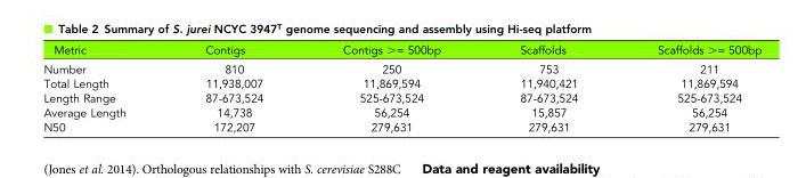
<table><thead><tr><td>Metric</td><td>Contigs</td><td>Contigs &gt;= 500bp</td><td>Scaffolds</td><td>Scaffolds &gt;= 500bp</td></tr></thead><tbody><tr><td>Number</td><td>810</td><td>250</td><td>753</td><td>211</td></tr><tr><td>Total Length</td><td>11,938,007</td><td>11,869,594</td><td>11,940,421</td><td>11,869,594</td></tr><tr><td>Length Range</td><td>87-673,524</td><td>525-673,524</td><td>87-673,524</td><td>525-673,524</td></tr><tr><td>Average Length</td><td>14,738</td><td>56,254</td><td>15,857</td><td>56,254</td></tr><tr><td>N50</td><td>172,207</td><td>279,631</td><td>279,631</td><td>279,631</td></tr></tbody></table>